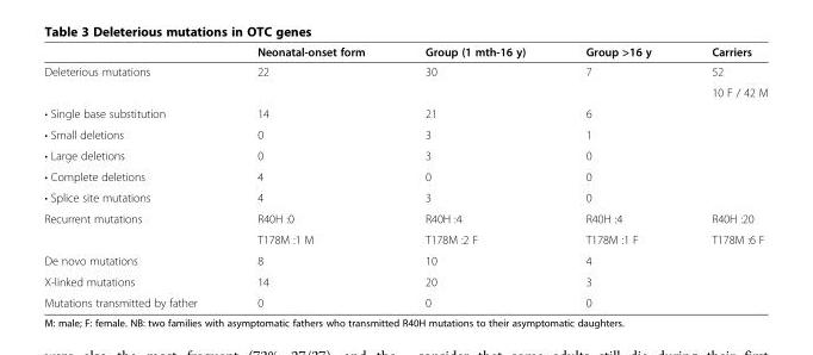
<table><thead><tr><td></td><td>Neonatal-onset form</td><td>Group (1 mth-16 y)</td><td>Group &gt;16 y</td><td>Carriers</td></tr></thead><tbody><tr><td rowspan="2">Deleterious mutations</td><td rowspan="2">22</td><td rowspan="2">30</td><td rowspan="2">7</td><td>52</td></tr><tr><td>10 F / 42 M</td></tr><tr><td>• Single base substitution</td><td>14</td><td>21</td><td>6</td><td></td></tr><tr><td>• Small deletions</td><td>0</td><td>3</td><td>1</td><td rowspan="3"></td></tr><tr><td>• Large deletions</td><td>0</td><td>3</td><td>0</td></tr><tr><td>• Complete deletions</td><td>4</td><td>0</td><td>0</td></tr><tr><td>• Splice site mutations</td><td>4</td><td>3</td><td>0</td><td></td></tr><tr><td rowspan="2">Recurrent mutations</td><td>R40H :0</td><td>R40H :4</td><td>R40H :4</td><td>R40H :20</td></tr><tr><td>T178M :1 M</td><td>T178M :2 F</td><td>T178M :1 F</td><td>T178M :6 F</td></tr><tr><td>De novo mutations</td><td>8</td><td>10</td><td>4</td><td></td></tr><tr><td>X-linked mutations</td><td>14</td><td>20</td><td>3</td><td></td></tr><tr><td>Mutations transmitted by father</td><td>0</td><td>0</td><td>0</td><td></td></tr></tbody></table>